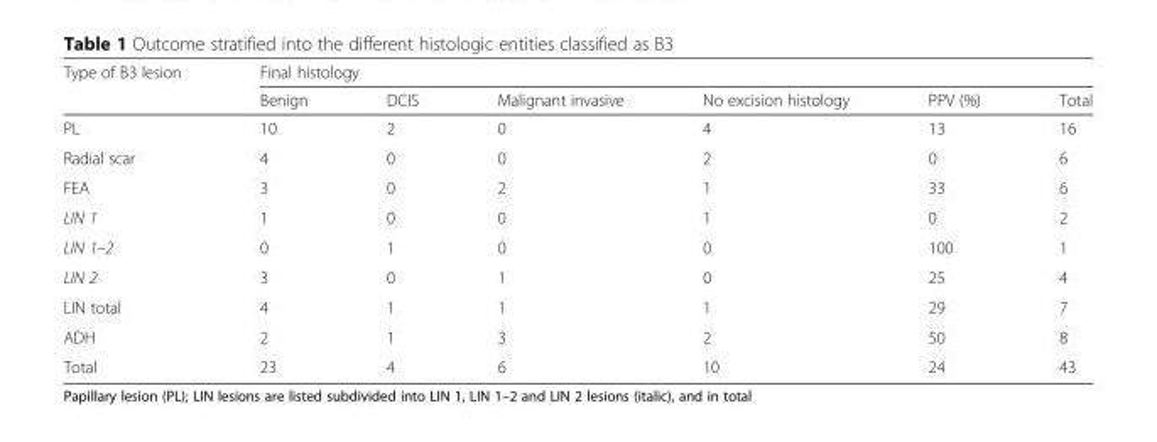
<table><thead><tr><td rowspan="2">Type of B3 lesion</td><td colspan="6">Final histology</td></tr><tr><td>Benign</td><td>DCIS</td><td>Malignant invasive</td><td>No excision histology</td><td>PPV (%)</td><td>Total</td></tr></thead><tbody><tr><td>PL</td><td>10</td><td>2</td><td>0</td><td>4</td><td>13</td><td>16</td></tr><tr><td>Radial scar</td><td>4</td><td>0</td><td>0</td><td>2</td><td>0</td><td>6</td></tr><tr><td>FEA</td><td>3</td><td>0</td><td>2</td><td>1</td><td>33</td><td>6</td></tr><tr><td>LIN 1</td><td>1</td><td>0</td><td>0</td><td>1</td><td>0</td><td>2</td></tr><tr><td>LIN 1–2</td><td>0</td><td>1</td><td>0</td><td>0</td><td>100</td><td>1</td></tr><tr><td>LIN 2</td><td>3</td><td>0</td><td>1</td><td>0</td><td>25</td><td>4</td></tr><tr><td>LIN total</td><td>4</td><td>1</td><td>1</td><td>1</td><td>29</td><td>7</td></tr><tr><td>ADH</td><td>2</td><td>1</td><td>3</td><td>2</td><td>50</td><td>8</td></tr><tr><td>Total</td><td>23</td><td>4</td><td>6</td><td>10</td><td>24</td><td>43</td></tr></tbody></table>